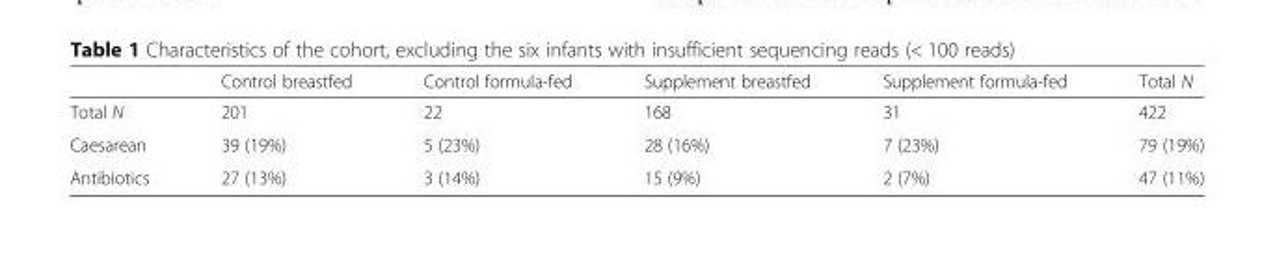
<table><thead><tr><td></td><td>Control breastfed</td><td>Control formula-fed</td><td>Supplement breastfed</td><td>Supplement formula-fed</td><td>Total N</td></tr></thead><tbody><tr><td>Total N</td><td>201</td><td>22</td><td>168</td><td>31</td><td>422</td></tr><tr><td>Caesarean</td><td>39 (19%)</td><td>5 (23%)</td><td>28 (16%)</td><td>7 (23%)</td><td>79 (19%)</td></tr><tr><td>Antibiotics</td><td>27 (13%)</td><td>3 (14%)</td><td>15 (9%)</td><td>2 (7%)</td><td>47 (11%)</td></tr></tbody></table>